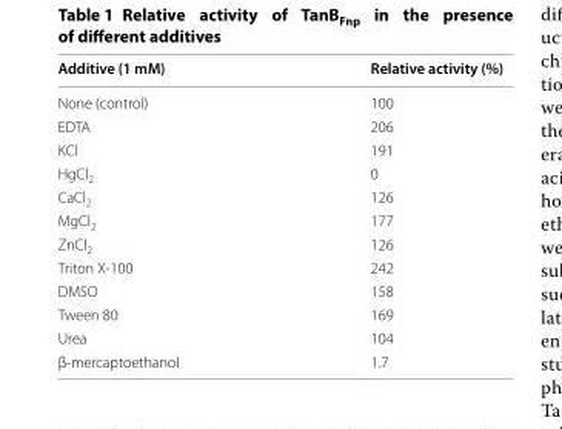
<table><thead><tr><td>Additive (1 mM)</td><td>Relative activity (%)</td></tr></thead><tbody><tr><td>None (control)</td><td>100</td></tr><tr><td>EDTA</td><td>206</td></tr><tr><td>KCl</td><td>191</td></tr><tr><td>HgCl<sub>2</sub></td><td>0</td></tr><tr><td>CaCl<sub>2</sub></td><td>126</td></tr><tr><td>MgCl<sub>2</sub></td><td>177</td></tr><tr><td>ZnCl<sub>2</sub></td><td>126</td></tr><tr><td>Triton X‑100</td><td>242</td></tr><tr><td>DMSO</td><td>158</td></tr><tr><td>Tween 80</td><td>169</td></tr><tr><td>Urea</td><td>104</td></tr><tr><td>β‑mercaptoethanol</td><td>1.7</td></tr></tbody></table>